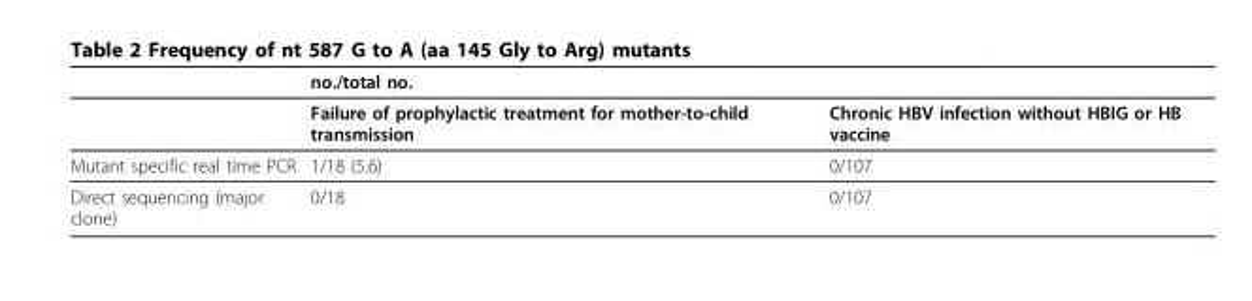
<table><thead><tr><td rowspan="2"></td><td colspan="2">no./total no.</td></tr><tr><td>Failure of prophylactic treatment for mother-to-child transmission</td><td>Chronic HBV infection without HBIG or HB vaccine</td></tr></thead><tbody><tr><td>Mutant specific real time PCR</td><td>1/18 (5.6)</td><td>0/107</td></tr><tr><td>Direct sequencing (major clone)</td><td>0/18</td><td>0/107</td></tr></tbody></table>